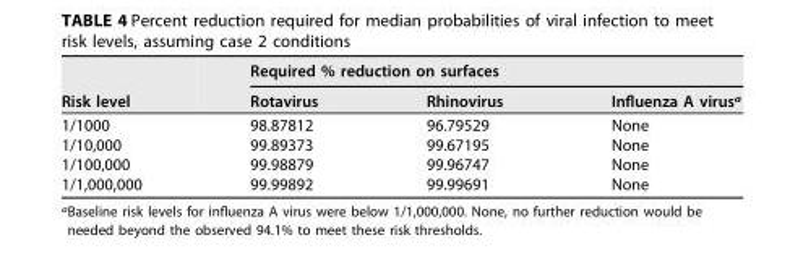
<table><thead><tr><td rowspan="2">Risk level</td><td colspan="3">Required % reduction on surfaces</td></tr><tr><td>Rotavirus</td><td>Rhinovirus</td><td>Influenza A virus<sup>a</sup></td></tr></thead><tbody><tr><td>1/1000</td><td>98.87812</td><td>96.79529</td><td>None</td></tr><tr><td>1/10,000</td><td>99.89373</td><td>99.67195</td><td>None</td></tr><tr><td>1/100,000</td><td>99.98879</td><td>99.96747</td><td>None</td></tr><tr><td>1/1,000,000</td><td>99.99892</td><td>99.99691</td><td>None</td></tr></tbody></table>